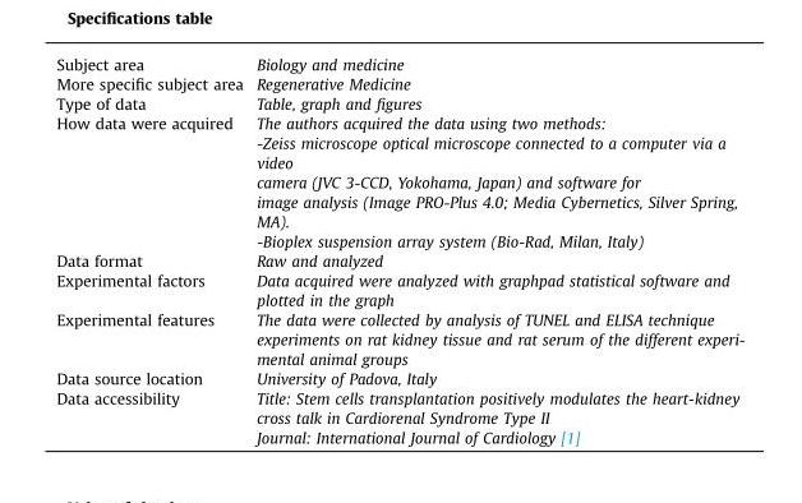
<table><thead><tr><td>Subject area</td><td>Biology and medicine</td></tr></thead><tbody><tr><td>More specific subject area</td><td>Regenerative Medicine</td></tr><tr><td>Type of data</td><td>Table, graph and figures</td></tr><tr><td rowspan="5">How data were acquired</td><td>The authors acquired the data using two methods:</td></tr><tr><td>-Zeiss microscope optical microscope connected to a computer via a video</td></tr><tr><td>camera (JVC 3-CCD, Yokohama, Japan) and software for</td></tr><tr><td>image analysis (Image PRO-Plus 4.0; Media Cybernetics, Silver Spring, MA).</td></tr><tr><td>-Bioplex suspension array system (Bio-Rad, Milan, Italy)</td></tr><tr><td>Data format</td><td>Raw and analyzed</td></tr><tr><td>Experimental factors</td><td>Data acquired were analyzed with graphpad statistical software and plotted in the graph</td></tr><tr><td>Experimental features</td><td>The data were collected by analysis of TUNEL and ELISA technique experiments on rat kidney tissue and rat serum of the different experi- mental animal groups</td></tr><tr><td>Data source location</td><td>University of Padova, Italy</td></tr><tr><td rowspan="2">Data accessibility</td><td>Title: Stem cells transplantation positively modulates the heart-kidney cross talk in Cardiorenal Syndrome Type II</td></tr><tr><td>Journal: International Journal of Cardiology [1]</td></tr></tbody></table>